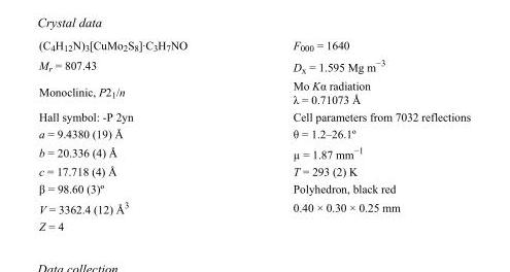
<table><tbody><tr><td>(C<sub>4</sub>H<sub>12</sub>N)<sub>3</sub>[CuMo<sub>2</sub>S<sub>8</sub>]·C<sub>3</sub>H<sub>7</sub>NO</td><td>F<sub>000</sub> = 1640</td></tr><tr><td>M<sub>r</sub> = 807.43</td><td>D<sub>x</sub> = 1.595 Mg m<sup>−3</sup></td></tr><tr><td>Monoclinic, P2<sub>1</sub>/n</td><td>Mo Kα radiation λ = 0.71073 Å</td></tr><tr><td>Hall symbol: -P 2yn</td><td>Cell parameters from 7032 reflections</td></tr><tr><td>a = 9.4380 (19) Å</td><td>θ = 1.2–26.1º</td></tr><tr><td>b = 20.336 (4) Å</td><td>µ = 1.87 mm<sup>−1</sup></td></tr><tr><td>c = 17.718 (4) Å</td><td>T = 293 (2) K</td></tr><tr><td>β = 98.60 (3)º</td><td>Polyhedron, black red</td></tr><tr><td>V = 3362.4 (12) Å<sup>3</sup></td><td>0.40 × 0.30 × 0.25 mm</td></tr><tr><td>Z = 4</td><td></td></tr></tbody></table>